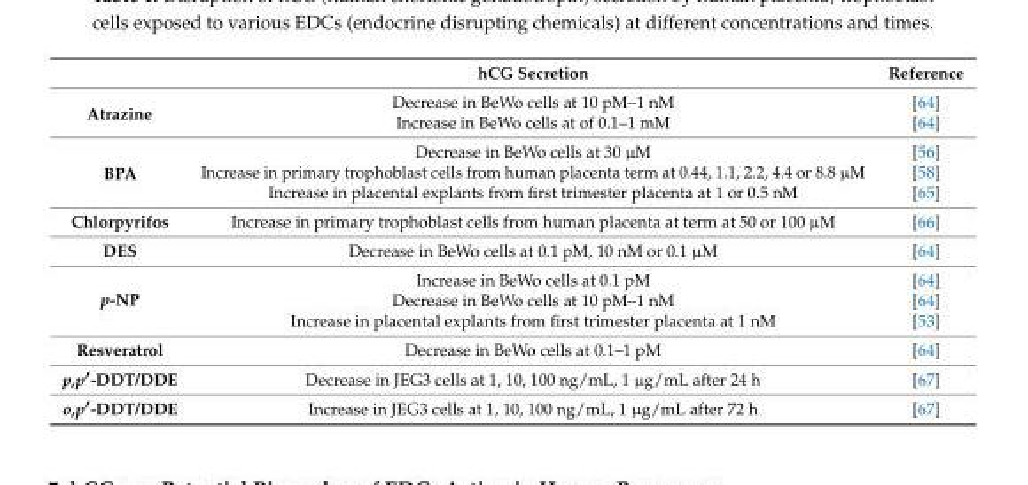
<table><thead><tr><td></td><td>hCG Secretion</td><td>Reference</td></tr></thead><tbody><tr><td rowspan="2">Atrazine</td><td>Decrease in BeWo cells at 10 pM–1 nM</td><td>[64]</td></tr><tr><td>Increase in BeWo cells at of 0.1–1 mM</td><td>[64]</td></tr><tr><td rowspan="3">BPA</td><td>Decrease in BeWo cells at 30 µM</td><td>[56]</td></tr><tr><td>Increase in primary trophoblast cells from human placenta term at 0.44, 1.1, 2.2, 4.4 or 8.8 µM</td><td>[58]</td></tr><tr><td>Increase in placental explants from first trimester placenta at 1 or 0.5 nM</td><td>[65]</td></tr><tr><td>Chlorpyrifos</td><td>Increase in primary trophoblast cells from human placenta at term at 50 or 100 µM</td><td>[66]</td></tr><tr><td>DES</td><td>Decrease in BeWo cells at 0.1 pM, 10 nM or 0.1 µM</td><td>[64]</td></tr><tr><td rowspan="3">p-NP</td><td>Increase in BeWo cells at 0.1 pM</td><td>[64]</td></tr><tr><td>Decrease in BeWo cells at 10 pM–1 nM</td><td>[64]</td></tr><tr><td>Increase in placental explants from first trimester placenta at 1 nM</td><td>[53]</td></tr><tr><td>Resveratrol</td><td>Decrease in BeWo cells at 0.1–1 pM</td><td>[64]</td></tr><tr><td>p,p′-DDT/DDE</td><td>Decrease in JEG3 cells at 1, 10, 100 ng/mL, 1 µg/mL after 24 h</td><td>[67]</td></tr><tr><td>o,p′-DDT/DDE</td><td>Increase in JEG3 cells at 1, 10, 100 ng/mL, 1 µg/mL after 72 h</td><td>[67]</td></tr></tbody></table>